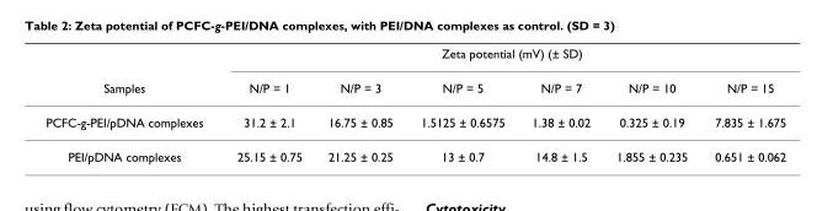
<table><thead><tr><td rowspan="2">Samples</td><td colspan="6">Zeta potential (mV) (± SD)</td></tr><tr><td>N/P = 1</td><td>N/P = 3</td><td>N/P = 5</td><td>N/P = 7</td><td>N/P = 10</td><td>N/P = 15</td></tr></thead><tbody><tr><td>PCFC-g-PEI/pDNA complexes</td><td>31.2 ± 2.1</td><td>16.75 ± 0.85</td><td>1.5125 ± 0.6575</td><td>1.38 ± 0.02</td><td>0.325 ± 0.19</td><td>7.835 ± 1.675</td></tr><tr><td>PEI/pDNA complexes</td><td>25.15 ± 0.75</td><td>21.25 ± 0.25</td><td>13 ± 0.7</td><td>14.8 ± 1.5</td><td>1.855 ± 0.235</td><td>0.651 ± 0.062</td></tr></tbody></table>